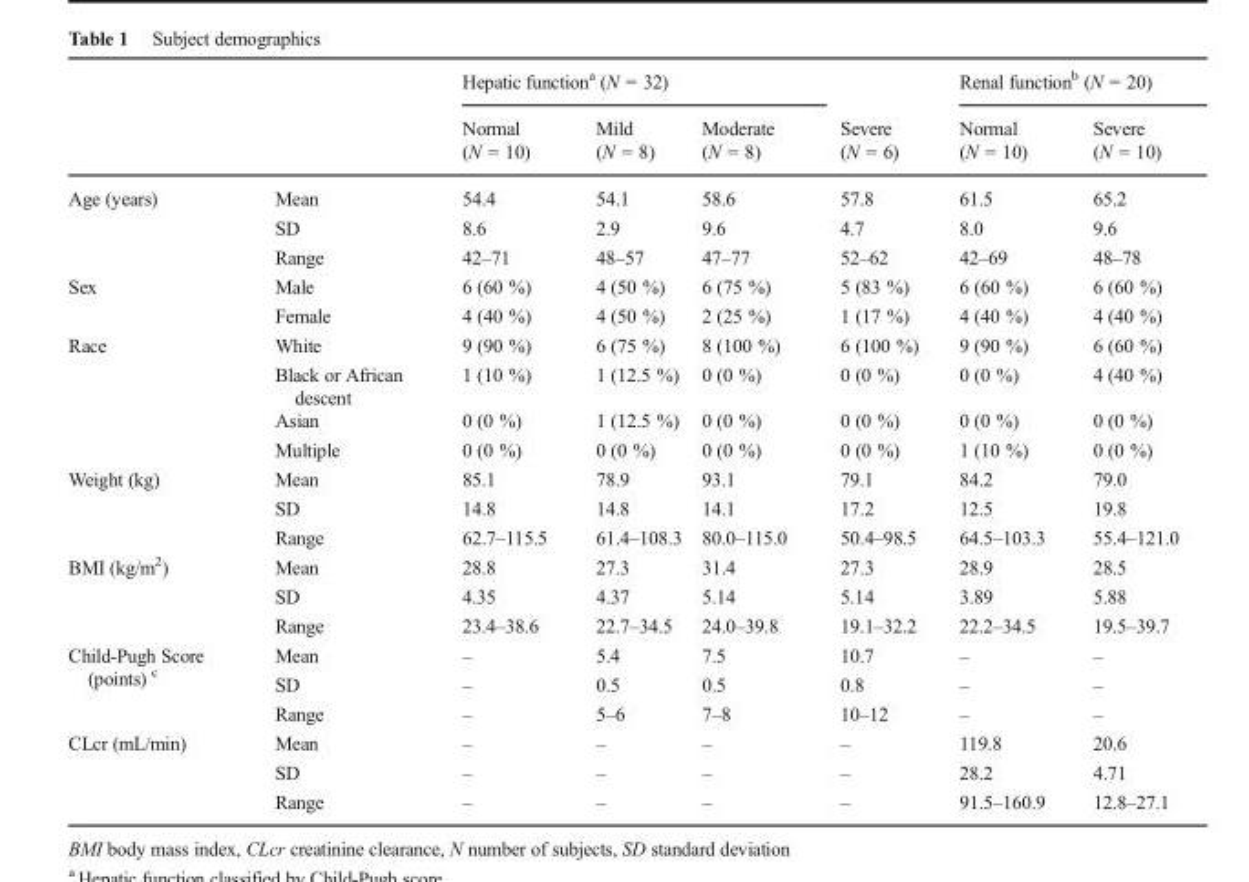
<table><thead><tr><td rowspan="2"></td><td rowspan="2"></td><td colspan="3">Hepatic function<sup>a</sup> (N = 32)</td><td rowspan="2">Severe (N = 6)</td><td colspan="2">Renal function<sup>b</sup> (N = 20)</td></tr><tr><td>Normal (N = 10)</td><td>Mild (N = 8)</td><td>Moderate (N = 8)</td><td>Normal (N = 10)</td><td>Severe (N = 10)</td></tr></thead><tbody><tr><td rowspan="3">Age (years)</td><td>Mean</td><td>54.4</td><td>54.1</td><td>58.6</td><td>57.8</td><td>61.5</td><td>65.2</td></tr><tr><td>SD</td><td>8.6</td><td>2.9</td><td>9.6</td><td>4.7</td><td>8.0</td><td>9.6</td></tr><tr><td>Range</td><td>42–71</td><td>48–57</td><td>47–77</td><td>52–62</td><td>42–69</td><td>48–78</td></tr><tr><td rowspan="2">Sex</td><td>Male</td><td>6 (60 %)</td><td>4 (50 %)</td><td>6 (75 %)</td><td>5 (83 %)</td><td>6 (60 %)</td><td>6 (60 %)</td></tr><tr><td>Female</td><td>4 (40 %)</td><td>4 (50 %)</td><td>2 (25 %)</td><td>1 (17 %)</td><td>4 (40 %)</td><td>4 (40 %)</td></tr><tr><td rowspan="4">Race</td><td>White</td><td>9 (90 %)</td><td>6 (75 %)</td><td>8 (100 %)</td><td>6 (100 %)</td><td>9 (90 %)</td><td>6 (60 %)</td></tr><tr><td>Black or African descent</td><td>1 (10 %)</td><td>1 (12.5 %)</td><td>0 (0 %)</td><td>0 (0 %)</td><td>0 (0 %)</td><td>4 (40 %)</td></tr><tr><td>Asian</td><td>0 (0 %)</td><td>1 (12.5 %)</td><td>0 (0 %)</td><td>0 (0 %)</td><td>0 (0 %)</td><td>0 (0 %)</td></tr><tr><td>Multiple</td><td>0 (0 %)</td><td>0 (0 %)</td><td>0 (0 %)</td><td>0 (0 %)</td><td>1 (10 %)</td><td>0 (0 %)</td></tr><tr><td rowspan="3">Weight (kg)</td><td>Mean</td><td>85.1</td><td>78.9</td><td>93.1</td><td>79.1</td><td>84.2</td><td>79.0</td></tr><tr><td>SD</td><td>14.8</td><td>14.8</td><td>14.1</td><td>17.2</td><td>12.5</td><td>19.8</td></tr><tr><td>Range</td><td>62.7–115.5</td><td>61.4–108.3</td><td>80.0–115.0</td><td>50.4–98.5</td><td>64.5–103.3</td><td>55.4–121.0</td></tr><tr><td rowspan="3">BMI (kg/m<sup>2</sup>)</td><td>Mean</td><td>28.8</td><td>27.3</td><td>31.4</td><td>27.3</td><td>28.9</td><td>28.5</td></tr><tr><td>SD</td><td>4.35</td><td>4.37</td><td>5.14</td><td>5.14</td><td>3.89</td><td>5.88</td></tr><tr><td>Range</td><td>23.4–38.6</td><td>22.7–34.5</td><td>24.0–39.8</td><td>19.1–32.2</td><td>22.2–34.5</td><td>19.5–39.7</td></tr><tr><td rowspan="3">Child-Pugh Score (points) <sup>c</sup></td><td>Mean</td><td>–</td><td>5.4</td><td>7.5</td><td>10.7</td><td>–</td><td>–</td></tr><tr><td>SD</td><td>–</td><td>0.5</td><td>0.5</td><td>0.8</td><td>–</td><td>–</td></tr><tr><td>Range</td><td>–</td><td>5–6</td><td>7–8</td><td>10–12</td><td>–</td><td>–</td></tr><tr><td rowspan="3">CLcr (mL/min)</td><td>Mean</td><td>–</td><td>–</td><td>–</td><td>–</td><td>119.8</td><td>20.6</td></tr><tr><td>SD</td><td>–</td><td>–</td><td>–</td><td>–</td><td>28.2</td><td>4.71</td></tr><tr><td>Range</td><td>–</td><td>–</td><td>–</td><td>–</td><td>91.5–160.9</td><td>12.8–27.1</td></tr></tbody></table>